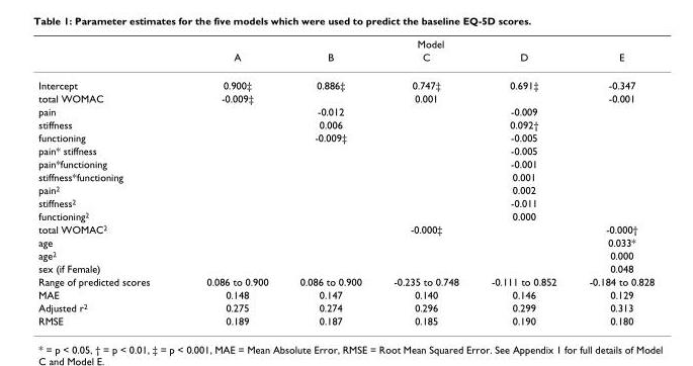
<table><thead><tr><td rowspan="2"></td><td colspan="5">Model</td></tr><tr><td>A</td><td>B</td><td>C</td><td>D</td><td>E</td></tr></thead><tbody><tr><td>Intercept</td><td>0.900‡</td><td>0.886‡</td><td>0.747‡</td><td>0.691‡</td><td>-0.347</td></tr><tr><td>total WOMAC</td><td>-0.009‡</td><td></td><td>0.001</td><td></td><td>-0.001</td></tr><tr><td>pain</td><td></td><td>-0.012</td><td></td><td>-0.009</td><td></td></tr><tr><td>stiffness</td><td></td><td>0.006</td><td></td><td>0.092†</td><td></td></tr><tr><td>functioning</td><td></td><td>-0.009‡</td><td></td><td>-0.005</td><td></td></tr><tr><td>pain* stiffness</td><td></td><td></td><td></td><td>-0.005</td><td></td></tr><tr><td>pain*functioning</td><td></td><td></td><td></td><td>-0.001</td><td></td></tr><tr><td>stiffness*functioning</td><td></td><td></td><td></td><td>0.001</td><td></td></tr><tr><td>pain<sup>2</sup></td><td></td><td></td><td></td><td>0.002</td><td></td></tr><tr><td>stiffness<sup>2</sup></td><td></td><td></td><td></td><td>-0.011</td><td></td></tr><tr><td>functioning<sup>2</sup></td><td></td><td></td><td></td><td>0.000</td><td></td></tr><tr><td>total WOMAC<sup>2</sup></td><td></td><td></td><td>-0.000‡</td><td></td><td>-0.000†</td></tr><tr><td>age</td><td></td><td></td><td></td><td></td><td>0.033*</td></tr><tr><td>age<sup>2</sup></td><td></td><td></td><td></td><td></td><td>0.000</td></tr><tr><td>sex (if Female)</td><td></td><td></td><td></td><td></td><td>0.048</td></tr><tr><td>Range of predicted scores</td><td>0.086 to 0.900</td><td>0.086 to 0.900</td><td>-0.235 to 0.748</td><td>-0.111 to 0.852</td><td>-0.184 to 0.828</td></tr><tr><td>MAE</td><td>0.148</td><td>0.147</td><td>0.140</td><td>0.146</td><td>0.129</td></tr><tr><td>Adjusted r<sup>2</sup></td><td>0.275</td><td>0.274</td><td>0.296</td><td>0.299</td><td>0.313</td></tr><tr><td>RMSE</td><td>0.189</td><td>0.187</td><td>0.185</td><td>0.190</td><td>0.180</td></tr></tbody></table>